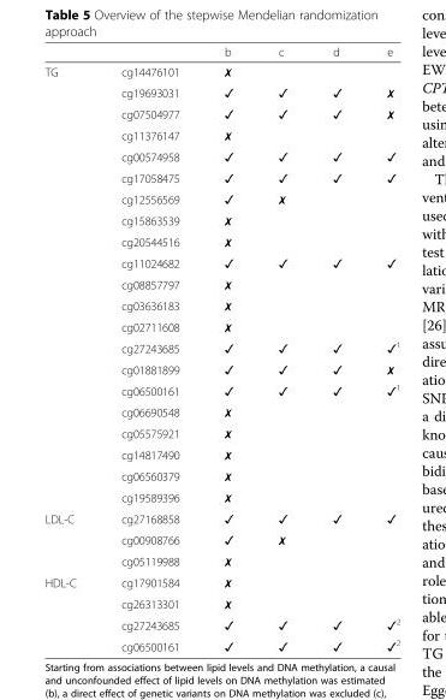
<table><thead><tr><td></td><td></td><td>b</td><td>c</td><td>d</td><td>e</td></tr></thead><tbody><tr><td rowspan="21">TG</td><td>cg14476101</td><td>✗</td><td></td><td></td><td></td></tr><tr><td>cg19693031</td><td>✓</td><td>✓</td><td>✓</td><td>✗</td></tr><tr><td>cg07504977</td><td>✓</td><td>✓</td><td>✓</td><td>✗</td></tr><tr><td>cg11376147</td><td>✗</td><td></td><td></td><td></td></tr><tr><td>cg00574958</td><td>✓</td><td>✓</td><td>✓</td><td>✓</td></tr><tr><td>cg17058475</td><td>✓</td><td>✓</td><td>✓</td><td>✓</td></tr><tr><td>cg12556569</td><td>✓</td><td>✗</td><td></td><td></td></tr><tr><td>cg15863539</td><td>✗</td><td></td><td></td><td></td></tr><tr><td>cg20544516</td><td>✗</td><td></td><td></td><td></td></tr><tr><td>cg11024682</td><td>✓</td><td>✓</td><td>✓</td><td>✓</td></tr><tr><td>cg08857797</td><td>✗</td><td></td><td></td><td></td></tr><tr><td>cg03636183</td><td>✗</td><td></td><td></td><td></td></tr><tr><td>cg02711608</td><td>✗</td><td></td><td></td><td></td></tr><tr><td>cg27243685</td><td>✓</td><td>✓</td><td>✓</td><td>✓<sup>1</sup></td></tr><tr><td>cg01881899</td><td>✓</td><td>✓</td><td>✓</td><td>✗</td></tr><tr><td>cg06500161</td><td>✓</td><td>✓</td><td>✓</td><td>✓<sup>1</sup></td></tr><tr><td>cg06690548</td><td>✗</td><td></td><td></td><td></td></tr><tr><td>cg05575921</td><td>✗</td><td></td><td></td><td></td></tr><tr><td>cg14817490</td><td>✗</td><td></td><td></td><td></td></tr><tr><td>cg06560379</td><td>✗</td><td></td><td></td><td></td></tr><tr><td>cg19589396</td><td>✗</td><td></td><td></td><td></td></tr><tr><td rowspan="3">LDL-C</td><td>cg27168858</td><td>✓</td><td>✓</td><td>✓</td><td>✓</td></tr><tr><td>cg00908766</td><td>✓</td><td>✗</td><td></td><td></td></tr><tr><td>cg05119988</td><td>✗</td><td></td><td></td><td></td></tr><tr><td rowspan="4">HDL-C</td><td>cg17901584</td><td>✗</td><td></td><td></td><td></td></tr><tr><td>cg26313301</td><td>✗</td><td></td><td></td><td></td></tr><tr><td>cg27243685</td><td>✓</td><td>✓</td><td>✓</td><td>✓<sup>2</sup></td></tr><tr><td>cg06500161</td><td>✓</td><td>✓</td><td>✓</td><td>✓<sup>2</sup></td></tr></tbody></table>